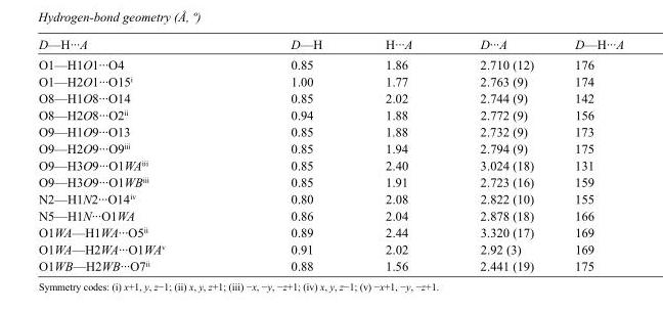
<table><tbody><tr><td>D—H···A</td><td>D—H</td><td>H···A</td><td>D···A</td><td>D—H···A</td></tr><tr><td>O1—H1O1···O4</td><td>0.85</td><td>1.86</td><td>2.710 (12)</td><td>176</td></tr><tr><td>O1—H2O1···O15<sup>i</sup></td><td>1.00</td><td>1.77</td><td>2.763 (9)</td><td>174</td></tr><tr><td>O8—H1O8···O14</td><td>0.85</td><td>2.02</td><td>2.744 (9)</td><td>142</td></tr><tr><td>O8—H2O8···O2<sup>ii</sup></td><td>0.94</td><td>1.88</td><td>2.772 (9)</td><td>156</td></tr><tr><td>O9—H1O9···O13</td><td>0.85</td><td>1.88</td><td>2.732 (9)</td><td>173</td></tr><tr><td>O9—H2O9···O9<sup>iii</sup></td><td>0.85</td><td>1.94</td><td>2.794 (9)</td><td>175</td></tr><tr><td>O9—H3O9···O1WA<sup>iii</sup></td><td>0.85</td><td>2.40</td><td>3.024 (18)</td><td>131</td></tr><tr><td>O9—H3O9···O1WB<sup>iii</sup></td><td>0.85</td><td>1.91</td><td>2.723 (16)</td><td>159</td></tr><tr><td>N2—H1N2···O14<sup>iv</sup></td><td>0.80</td><td>2.08</td><td>2.822 (10)</td><td>155</td></tr><tr><td>N5—H1N···O1WA</td><td>0.86</td><td>2.04</td><td>2.878 (18)</td><td>166</td></tr><tr><td>O1WA—H1WA···O5<sup>ii</sup></td><td>0.89</td><td>2.44</td><td>3.320 (17)</td><td>169</td></tr><tr><td>O1WA—H2WA···O1WA<sup>v</sup></td><td>0.91</td><td>2.02</td><td>2.92 (3)</td><td>169</td></tr><tr><td>O1WB—H2WB···O7<sup>ii</sup></td><td>0.88</td><td>1.56</td><td>2.441 (19)</td><td>175</td></tr></tbody></table>